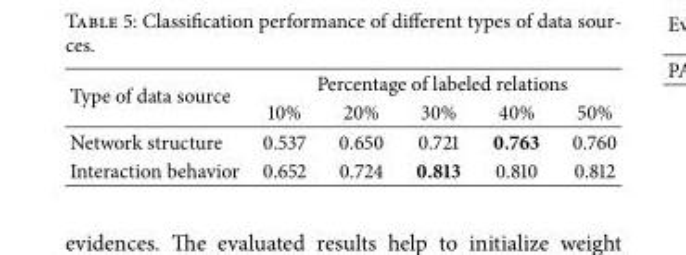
<table><thead><tr><td rowspan="2">Type of data source</td><td colspan="5">Percentage of labeled relations</td></tr><tr><td>10%</td><td>20%</td><td>30%</td><td>40%</td><td>50%</td></tr></thead><tbody><tr><td>Network structure</td><td>0.537</td><td>0.650</td><td>0.721</td><td>0.763</td><td>0.760</td></tr><tr><td>Interaction behavior</td><td>0.652</td><td>0.724</td><td>0.813</td><td>0.810</td><td>0.812</td></tr></tbody></table>